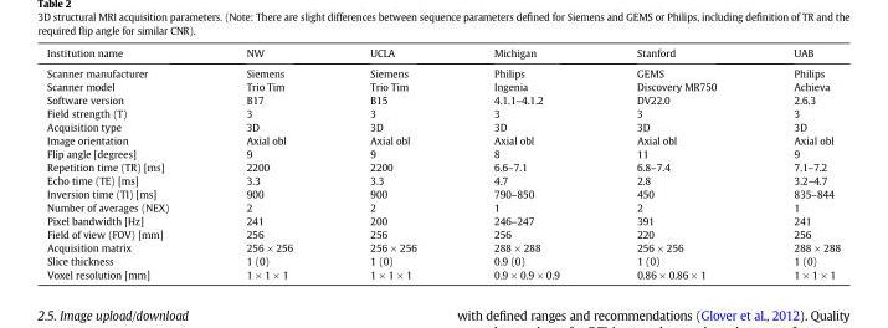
<table><thead><tr><td>Institution name</td><td>NW</td><td>UCLA</td><td>Michigan</td><td>Stanford</td><td>UAB</td></tr></thead><tbody><tr><td>Scanner manufacturer</td><td>Siemens</td><td>Siemens</td><td>Philips</td><td>GEMS</td><td>Philips</td></tr><tr><td>Scanner model</td><td>Trio Tim</td><td>Trio Tim</td><td>Ingenia</td><td>Discovery MR750</td><td>Achieva</td></tr><tr><td>Software version</td><td>B17</td><td>B15</td><td>4.1.1–4.1.2</td><td>DV22.0</td><td>2.6.3</td></tr><tr><td>Field strength (T)</td><td>3</td><td>3</td><td>3</td><td>3</td><td>3</td></tr><tr><td>Acquisition type</td><td>3D</td><td>3D</td><td>3D</td><td>3D</td><td>3D</td></tr><tr><td>Image orientation</td><td>Axial obl</td><td>Axial obl</td><td>Axial obl</td><td>Axial obl</td><td>Axial obl</td></tr><tr><td>Flip angle [degrees]</td><td>9</td><td>9</td><td>8</td><td>11</td><td>9</td></tr><tr><td>Repetition time (TR) [ms]</td><td>2200</td><td>2200</td><td>6.6–7.1</td><td>6.8–7.4</td><td>7.1–7.2</td></tr><tr><td>Echo time (TE) [ms]</td><td>3.3</td><td>3.3</td><td>4.7</td><td>2.8</td><td>3.2–4.7</td></tr><tr><td>Inversion time (TI) [ms]</td><td>900</td><td>900</td><td>790–850</td><td>450</td><td>835–844</td></tr><tr><td>Number of averages (NEX)</td><td>2</td><td>2</td><td>1</td><td>2</td><td>1</td></tr><tr><td>Pixel bandwidth [Hz]</td><td>241</td><td>200</td><td>246–247</td><td>391</td><td>241</td></tr><tr><td>Field of view (FOV) [mm]</td><td>256</td><td>256</td><td>256</td><td>220</td><td>256</td></tr><tr><td>Acquisition matrix</td><td>256 × 256</td><td>256 × 256</td><td>288 × 288</td><td>256 × 256</td><td>288 × 288</td></tr><tr><td>Slice thickness</td><td>1 (0)</td><td>1 (0)</td><td>0.9 (0)</td><td>1 (0)</td><td>1 (0)</td></tr><tr><td>Voxel resolution [mm]</td><td>1 × 1 × 1</td><td>1 × 1 × 1</td><td>0.9 × 0.9 × 0.9</td><td>0.86 × 0.86 × 1</td><td>1 × 1 × 1</td></tr></tbody></table>